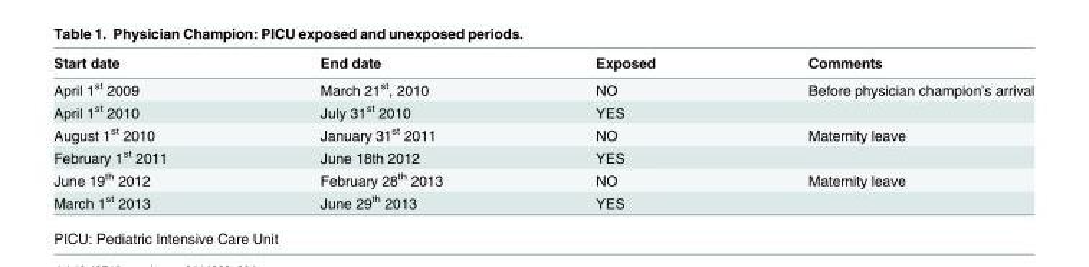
<table><thead><tr><td>Start date</td><td>End date</td><td>Exposed</td><td>Comments</td></tr></thead><tbody><tr><td>April 1<sup>st</sup> 2009</td><td>March 21<sup>st</sup>, 2010</td><td>NO</td><td>Before physician champion’s arrival</td></tr><tr><td>April 1<sup>st</sup> 2010</td><td>July 31<sup>st</sup> 2010</td><td>YES</td><td></td></tr><tr><td>August 1<sup>st</sup> 2010</td><td>January 31<sup>st</sup> 2011</td><td>NO</td><td>Maternity leave</td></tr><tr><td>February 1<sup>st</sup> 2011</td><td>June 18th 2012</td><td>YES</td><td></td></tr><tr><td>June 19<sup>th</sup> 2012</td><td>February 28<sup>th</sup> 2013</td><td>NO</td><td>Maternity leave</td></tr><tr><td>March 1<sup>st</sup> 2013</td><td>June 29<sup>th</sup> 2013</td><td>YES</td><td></td></tr></tbody></table>